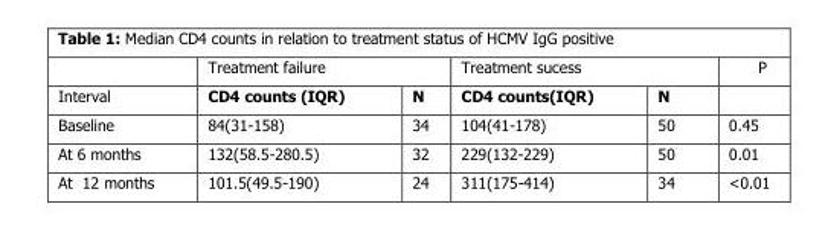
<table><thead><tr><td rowspan="2">Interval</td><td colspan="2">Treatment failure</td><td colspan="2">Treatment sucess</td><td rowspan="2">P</td></tr><tr><td>CD4 counts (IQR)</td><td>N</td><td>CD4 counts(IQR)</td><td>N</td></tr></thead><tbody><tr><td>Baseline</td><td>84(31-158)</td><td>34</td><td>104(41-178)</td><td>50</td><td>0.45</td></tr><tr><td>At 6 months</td><td>132(58.5-280.5)</td><td>32</td><td>229(132-229)</td><td>50</td><td>0.01</td></tr><tr><td>At 12 months</td><td>101.5(49.5-190)</td><td>24</td><td>311(175-414)</td><td>34</td><td>&lt;0.01</td></tr></tbody></table>